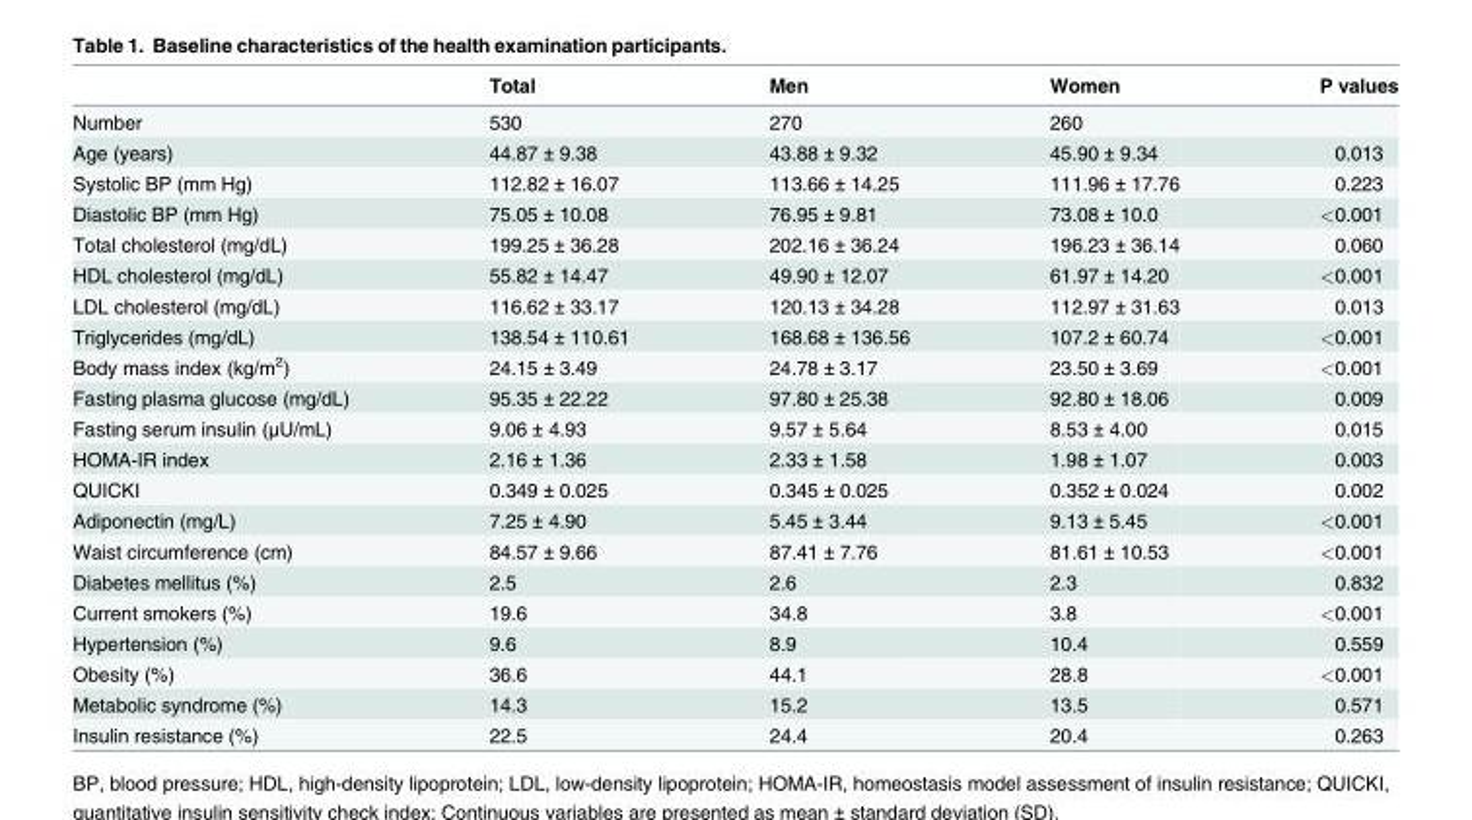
<table><thead><tr><td></td><td>Total</td><td>Men</td><td>Women</td><td>P values</td></tr></thead><tbody><tr><td>Number</td><td>530</td><td>270</td><td>260</td><td></td></tr><tr><td>Age (years)</td><td>44.87 ± 9.38</td><td>43.88 ± 9.32</td><td>45.90 ± 9.34</td><td>0.013</td></tr><tr><td>Systolic BP (mm Hg)</td><td>112.82 ± 16.07</td><td>113.66 ± 14.25</td><td>111.96 ± 17.76</td><td>0.223</td></tr><tr><td>Diastolic BP (mm Hg)</td><td>75.05 ± 10.08</td><td>76.95 ± 9.81</td><td>73.08 ± 10.0</td><td>&lt;0.001</td></tr><tr><td>Total cholesterol (mg/dL)</td><td>199.25 ± 36.28</td><td>202.16 ± 36.24</td><td>196.23 ± 36.14</td><td>0.060</td></tr><tr><td>HDL cholesterol (mg/dL)</td><td>55.82 ± 14.47</td><td>49.90 ± 12.07</td><td>61.97 ± 14.20</td><td>&lt;0.001</td></tr><tr><td>LDL cholesterol (mg/dL)</td><td>116.62 ± 33.17</td><td>120.13 ± 34.28</td><td>112.97 ± 31.63</td><td>0.013</td></tr><tr><td>Triglycerides (mg/dL)</td><td>138.54 ± 110.61</td><td>168.68 ± 136.56</td><td>107.2 ± 60.74</td><td>&lt;0.001</td></tr><tr><td>Body mass index (kg/m<sup>2</sup>)</td><td>24.15 ± 3.49</td><td>24.78 ± 3.17</td><td>23.50 ± 3.69</td><td>&lt;0.001</td></tr><tr><td>Fasting plasma glucose (mg/dL)</td><td>95.35 ± 22.22</td><td>97.80 ± 25.38</td><td>92.80 ± 18.06</td><td>0.009</td></tr><tr><td>Fasting serum insulin (μU/mL)</td><td>9.06 ± 4.93</td><td>9.57 ± 5.64</td><td>8.53 ± 4.00</td><td>0.015</td></tr><tr><td>HOMA-IR index</td><td>2.16 ± 1.36</td><td>2.33 ± 1.58</td><td>1.98 ± 1.07</td><td>0.003</td></tr><tr><td>QUICKI</td><td>0.349 ± 0.025</td><td>0.345 ± 0.025</td><td>0.352 ± 0.024</td><td>0.002</td></tr><tr><td>Adiponectin (mg/L)</td><td>7.25 ± 4.90</td><td>5.45 ± 3.44</td><td>9.13 ± 5.45</td><td>&lt;0.001</td></tr><tr><td>Waist circumference (cm)</td><td>84.57 ± 9.66</td><td>87.41 ± 7.76</td><td>81.61 ± 10.53</td><td>&lt;0.001</td></tr><tr><td>Diabetes mellitus (%)</td><td>2.5</td><td>2.6</td><td>2.3</td><td>0.832</td></tr><tr><td>Current smokers (%)</td><td>19.6</td><td>34.8</td><td>3.8</td><td>&lt;0.001</td></tr><tr><td>Hypertension (%)</td><td>9.6</td><td>8.9</td><td>10.4</td><td>0.559</td></tr><tr><td>Obesity (%)</td><td>36.6</td><td>44.1</td><td>28.8</td><td>&lt;0.001</td></tr><tr><td>Metabolic syndrome (%)</td><td>14.3</td><td>15.2</td><td>13.5</td><td>0.571</td></tr><tr><td>Insulin resistance (%)</td><td>22.5</td><td>24.4</td><td>20.4</td><td>0.263</td></tr></tbody></table>